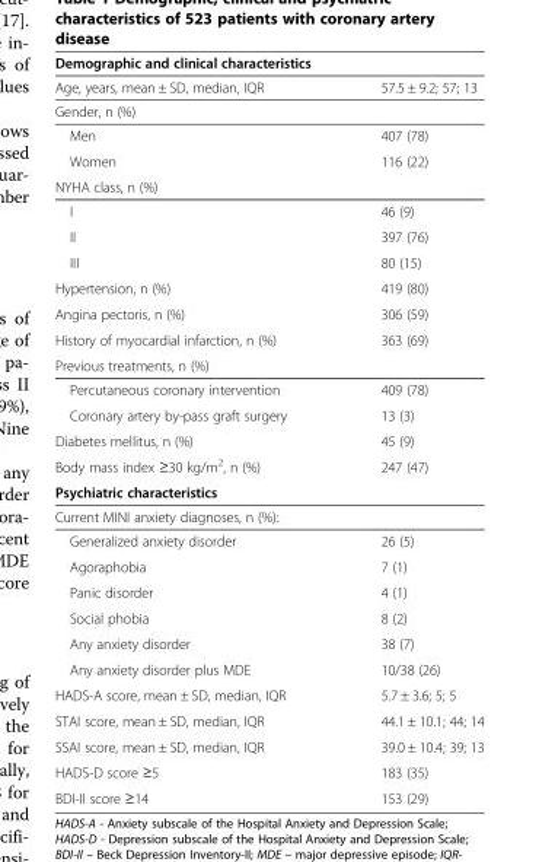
<table><thead><tr><td colspan="2">Demographic and clinical characteristics</td></tr><tr><td>Age, years, mean ± SD, median, IQR</td><td>57.5 ± 9.2; 57; 13</td></tr></thead><tbody><tr><td colspan="2">Gender, n (%)</td></tr><tr><td>Men</td><td>407 (78)</td></tr><tr><td>Women</td><td>116 (22)</td></tr><tr><td colspan="2">NYHA class, n (%)</td></tr><tr><td>I</td><td>46 (9)</td></tr><tr><td>II</td><td>397 (76)</td></tr><tr><td>III</td><td>80 (15)</td></tr><tr><td>Hypertension, n (%)</td><td>419 (80)</td></tr><tr><td>Angina pectoris, n (%)</td><td>306 (59)</td></tr><tr><td>History of myocardial infarction, n (%)</td><td>363 (69)</td></tr><tr><td colspan="2">Previous treatments, n (%)</td></tr><tr><td>Percutaneous coronary intervention</td><td>409 (78)</td></tr><tr><td>Coronary artery by-pass graft surgery</td><td>13 (3)</td></tr><tr><td>Diabetes mellitus, n (%)</td><td>45 (9)</td></tr><tr><td>Body mass index ≥30 kg/m<sup>2</sup>, n (%)</td><td>247 (47)</td></tr><tr><td colspan="2">Psychiatric characteristics</td></tr><tr><td colspan="2">Current MINI anxiety diagnoses, n (%):</td></tr><tr><td>Generalized anxiety disorder</td><td>26 (5)</td></tr><tr><td>Agoraphobia</td><td>7 (1)</td></tr><tr><td>Panic disorder</td><td>4 (1)</td></tr><tr><td>Social phobia</td><td>8 (2)</td></tr><tr><td>Any anxiety disorder</td><td>38 (7)</td></tr><tr><td>Any anxiety disorder plus MDE</td><td>10/38 (26)</td></tr><tr><td>HADS-A score, mean ± SD, median, IQR</td><td>5.7 ± 3.6; 5; 5</td></tr><tr><td>STAI score, mean ± SD, median, IQR</td><td>44.1 ± 10.1; 44; 14</td></tr><tr><td>SSAI score, mean ± SD, median, IQR</td><td>39.0 ± 10.4; 39; 13</td></tr><tr><td>HADS-D score ≥5</td><td>183 (35)</td></tr><tr><td>BDI-II score ≥14</td><td>153 (29)</td></tr></tbody></table>